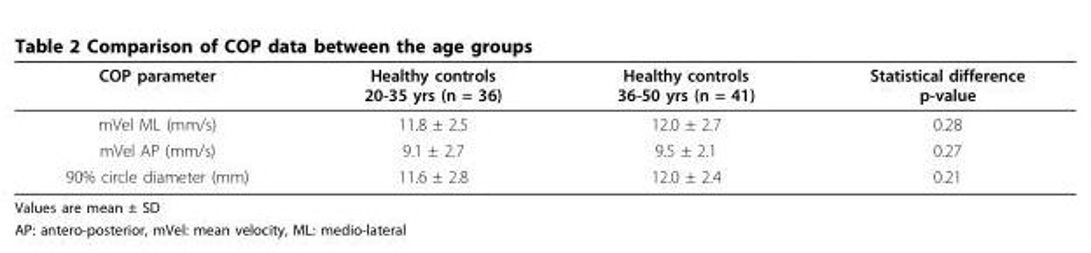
<table><thead><tr><td>COP parameter</td><td>Healthy controls 20-35 yrs (n = 36)</td><td>Healthy controls 36-50 yrs (n = 41)</td><td>Statistical difference p-value</td></tr></thead><tbody><tr><td>mVel ML (mm/s)</td><td>11.8 ± 2.5</td><td>12.0 ± 2.7</td><td>0.28</td></tr><tr><td>mVel AP (mm/s)</td><td>9.1 ± 2.7</td><td>9.5 ± 2.1</td><td>0.27</td></tr><tr><td>90% circle diameter (mm)</td><td>11.6 ± 2.8</td><td>12.0 ± 2.4</td><td>0.21</td></tr></tbody></table>